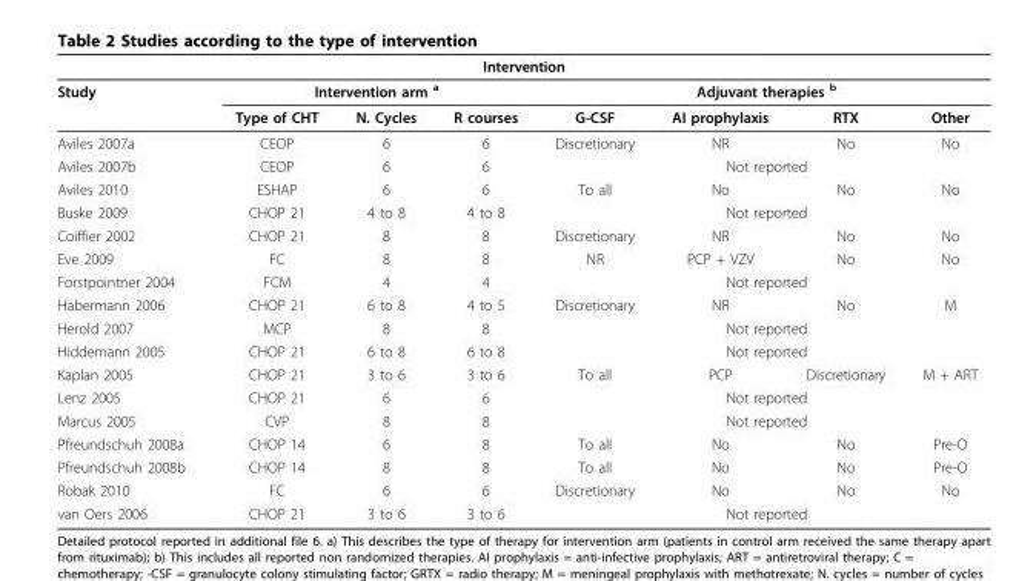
<table><thead><tr><td colspan="8">Intervention</td></tr><tr><td rowspan="2">Study</td><td colspan="3">Intervention arm <sup>a</sup></td><td colspan="4">Adjuvant therapies <sup>b</sup></td></tr><tr><td>Type of CHT</td><td>N. Cycles</td><td>R courses</td><td>G-CSF</td><td>AI prophylaxis</td><td>RTX</td><td>Other</td></tr></thead><tbody><tr><td>Aviles 2007a</td><td>CEOP</td><td>6</td><td>6</td><td>Discretionary</td><td>NR</td><td>No</td><td>No</td></tr><tr><td>Aviles 2007b</td><td>CEOP</td><td>6</td><td>6</td><td colspan="4">Not reported</td></tr><tr><td>Aviles 2010</td><td>ESHAP</td><td>6</td><td>6</td><td>To all</td><td>No</td><td>No</td><td>No</td></tr><tr><td>Buske 2009</td><td>CHOP 21</td><td>4 to 8</td><td>4 to 8</td><td colspan="4">Not reported</td></tr><tr><td>Coiffier 2002</td><td>CHOP 21</td><td>8</td><td>8</td><td>Discretionary</td><td>NR</td><td>No</td><td>No</td></tr><tr><td>Eve 2009</td><td>FC</td><td>8</td><td>8</td><td>NR</td><td>PCP + VZV</td><td>No</td><td>No</td></tr><tr><td>Forstpointner 2004</td><td>FCM</td><td>4</td><td>4</td><td colspan="4">Not reported</td></tr><tr><td>Habermann 2006</td><td>CHOP 21</td><td>6 to 8</td><td>4 to 5</td><td>Discretionary</td><td>NR</td><td>No</td><td>M</td></tr><tr><td>Herold 2007</td><td>MCP</td><td>8</td><td>8</td><td colspan="4">Not reported</td></tr><tr><td>Hiddemann 2005</td><td>CHOP 21</td><td>6 to 8</td><td>6 to 8</td><td colspan="4">Not reported</td></tr><tr><td>Kaplan 2005</td><td>CHOP 21</td><td>3 to 6</td><td>3 to 6</td><td>To all</td><td>PCP</td><td>Discretionary</td><td>M + ART</td></tr><tr><td>Lenz 2005</td><td>CHOP 21</td><td>6</td><td>6</td><td colspan="4">Not reported</td></tr><tr><td>Marcus 2005</td><td>CVP</td><td>8</td><td>8</td><td colspan="4">Not reported</td></tr><tr><td>Pfreundschuh 2008a</td><td>CHOP 14</td><td>6</td><td>8</td><td>To all</td><td>No</td><td>No</td><td>Pre-O</td></tr><tr><td>Pfreundschuh 2008b</td><td>CHOP 14</td><td>8</td><td>8</td><td>To all</td><td>No</td><td>No</td><td>Pre-O</td></tr><tr><td>Robak 2010</td><td>FC</td><td>6</td><td>6</td><td>Discretionary</td><td>No</td><td>No</td><td>No</td></tr><tr><td>van Oers 2006</td><td>CHOP 21</td><td>3 to 6</td><td>3 to 6</td><td colspan="4">Not reported</td></tr></tbody></table>